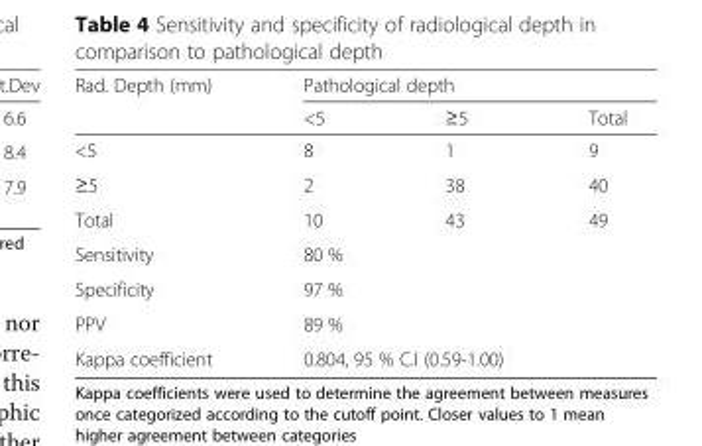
<table><thead><tr><td rowspan="2">Rad. Depth (mm)</td><td colspan="3">Pathological depth</td></tr><tr><td>&lt;5</td><td>≥5</td><td>Total</td></tr></thead><tbody><tr><td>&lt;5</td><td>8</td><td>1</td><td>9</td></tr><tr><td>≥5</td><td>2</td><td>38</td><td>40</td></tr><tr><td>Total</td><td>10</td><td>43</td><td>49</td></tr><tr><td>Sensitivity</td><td colspan="3">80 %</td></tr><tr><td>Specificity</td><td colspan="3">97 %</td></tr><tr><td>PPV</td><td colspan="3">89 %</td></tr><tr><td>Kappa coefficient</td><td colspan="3">0.804, 95 % C.I (0.59-1.00)</td></tr></tbody></table>